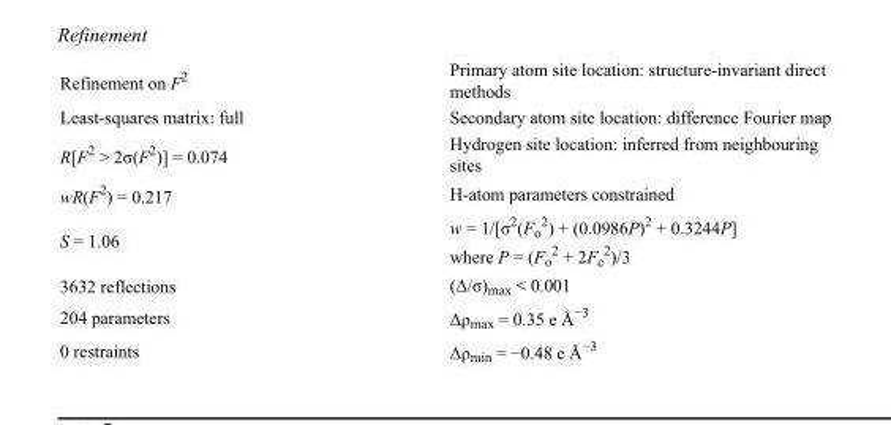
<table><tbody><tr><td>Refinement on F<sup>2</sup></td><td>Primary atom site location: structure-invariant direct methods</td></tr><tr><td>Least-squares matrix: full</td><td>Secondary atom site location: difference Fourier map</td></tr><tr><td>R[F<sup>2</sup> &gt; 2σ(F<sup>2</sup>)] = 0.074</td><td>Hydrogen site location: inferred from neighbouring sites</td></tr><tr><td>wR(F<sup>2</sup>) = 0.217</td><td>H-atom parameters constrained</td></tr><tr><td>S = 1.06</td><td>w = 1/[σ<sup>2</sup>(F<sub>o</sub> <sup>2</sup>) + (0.0986P)<sup>2</sup> + 0.3244P] where P = (F<sub>o</sub> <sup>2</sup> + 2F<sub>c</sub> <sup>2</sup>)/3</td></tr><tr><td>3632 reflections</td><td>(Δ/σ)<sub>max</sub> &lt; 0.001</td></tr><tr><td>204 parameters</td><td>Δρ<sub>max</sub> = 0.35 e Å<sup>−3</sup></td></tr><tr><td>0 restraints</td><td>Δρ<sub>min</sub> = −0.48 e Å<sup>−3</sup></td></tr></tbody></table>